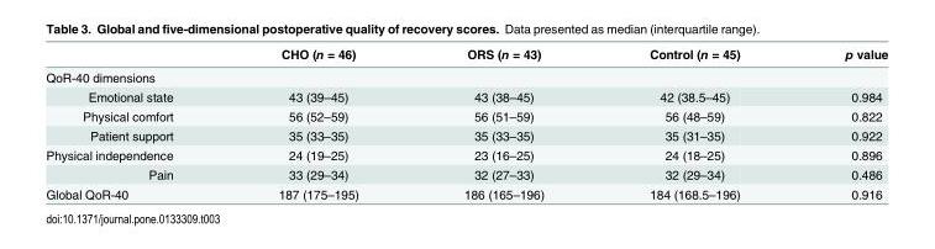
<table><thead><tr><td></td><td>CHO (n = 46)</td><td>ORS (n = 43)</td><td>Control (n = 45)</td><td>p value</td></tr></thead><tbody><tr><td colspan="5">QoR-40 dimensions</td></tr><tr><td>Emotional state</td><td>43 (39–45)</td><td>43 (38–45)</td><td>42 (38.5–45)</td><td>0.984</td></tr><tr><td>Physical comfort</td><td>56 (52–59)</td><td>56 (51–59)</td><td>56 (48–59)</td><td>0.822</td></tr><tr><td>Patient support</td><td>35 (33–35)</td><td>35 (33–35)</td><td>35 (31–35)</td><td>0.922</td></tr><tr><td>Physical independence</td><td>24 (19–25)</td><td>23 (16–25)</td><td>24 (18–25)</td><td>0.896</td></tr><tr><td>Pain</td><td>33 (29–34)</td><td>32 (27–33)</td><td>32 (29–34)</td><td>0.486</td></tr><tr><td>Global QoR-40</td><td>187 (175–195)</td><td>186 (165–196)</td><td>184 (168.5–196)</td><td>0.916</td></tr></tbody></table>